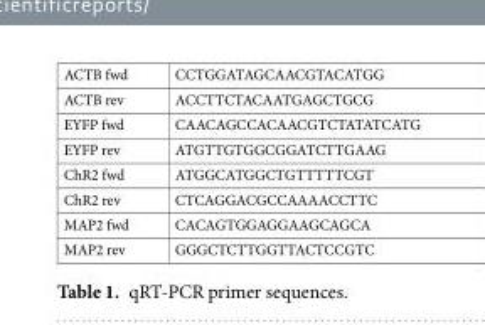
<table><tbody><tr><td>ACTB fwd</td><td>CCTGGATAGCAACGTACATGG</td></tr><tr><td>ACTB rev</td><td>ACCTTCTACAATGAGCTGCG</td></tr><tr><td>EYFP fwd</td><td>CAACAGCCACAACGTCTATATCATG</td></tr><tr><td>EYFP rev</td><td>ATGTTGTGGCGGATCTTGAAG</td></tr><tr><td>ChR2 fwd</td><td>ATGGCATGGCTGTTTTTCGT</td></tr><tr><td>ChR2 rev</td><td>CTCAGGACGCCAAAACCTTC</td></tr><tr><td>MAP2 fwd</td><td>CACAGTGGAGGAAGCAGCA</td></tr><tr><td>MAP2 rev</td><td>GGGCTCTTGGTTACTCCGTC</td></tr></tbody></table>